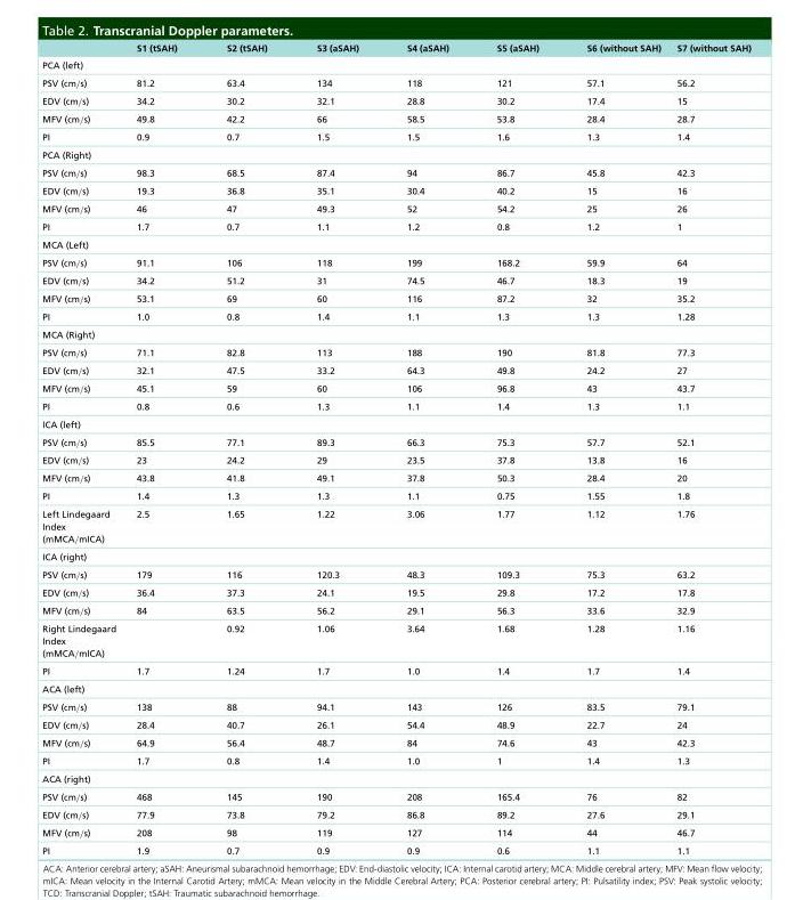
<table><thead><tr><td></td><td>S1 (tSAH)</td><td>S2 (tSAH)</td><td>S3 (aSAH)</td><td>S4 (aSAH)</td><td>S5 (aSAH)</td><td>S6 (without SAH)</td><td>S7 (without SAH)</td></tr></thead><tbody><tr><td colspan="8">PCA (left)</td></tr><tr><td>PSV (cm/s)</td><td>81.2</td><td>63.4</td><td>134</td><td>118</td><td>121</td><td>57.1</td><td>56.2</td></tr><tr><td>EDV (cm/s)</td><td>34.2</td><td>30.2</td><td>32.1</td><td>28.8</td><td>30.2</td><td>17.4</td><td>15</td></tr><tr><td>MFV (cm/s)</td><td>49.8</td><td>42.2</td><td>66</td><td>58.5</td><td>53.8</td><td>28.4</td><td>28.7</td></tr><tr><td>PI</td><td>0.9</td><td>0.7</td><td>1.5</td><td>1.5</td><td>1.6</td><td>1.3</td><td>1.4</td></tr><tr><td colspan="8">PCA (Right)</td></tr><tr><td>PSV (cm/s)</td><td>98.3</td><td>68.5</td><td>87.4</td><td>94</td><td>86.7</td><td>45.8</td><td>42.3</td></tr><tr><td>EDV (cm/s)</td><td>19.3</td><td>36.8</td><td>35.1</td><td>30.4</td><td>40.2</td><td>15</td><td>16</td></tr><tr><td>MFV (cm/s)</td><td>46</td><td>47</td><td>49.3</td><td>52</td><td>54.2</td><td>25</td><td>26</td></tr><tr><td>PI</td><td>1.7</td><td>0.7</td><td>1.1</td><td>1.2</td><td>0.8</td><td>1.2</td><td>1</td></tr><tr><td colspan="8">MCA (Left)</td></tr><tr><td>PSV (cm/s)</td><td>91.1</td><td>106</td><td>118</td><td>199</td><td>168.2</td><td>59.9</td><td>64</td></tr><tr><td>EDV (cm/s)</td><td>34.2</td><td>51.2</td><td>31</td><td>74.5</td><td>46.7</td><td>18.3</td><td>19</td></tr><tr><td>MFV (cm/s)</td><td>53.1</td><td>69</td><td>60</td><td>116</td><td>87.2</td><td>32</td><td>35.2</td></tr><tr><td>PI</td><td>1.0</td><td>0.8</td><td>1.4</td><td>1.1</td><td>1.3</td><td>1.3</td><td>1.28</td></tr><tr><td colspan="8">MCA (Right)</td></tr><tr><td>PSV (cm/s)</td><td>71.1</td><td>82.8</td><td>113</td><td>188</td><td>190</td><td>81.8</td><td>77.3</td></tr><tr><td>EDV (cm/s)</td><td>32.1</td><td>47.5</td><td>33.2</td><td>64.3</td><td>49.8</td><td>24.2</td><td>27</td></tr><tr><td>MFV (cm/s)</td><td>45.1</td><td>59</td><td>60</td><td>106</td><td>96.8</td><td>43</td><td>43.7</td></tr><tr><td>PI</td><td>0.8</td><td>0.6</td><td>1.3</td><td>1.1</td><td>1.4</td><td>1.3</td><td>1.1</td></tr><tr><td colspan="8">ICA (left)</td></tr><tr><td>PSV (cm/s)</td><td>85.5</td><td>77.1</td><td>89.3</td><td>66.3</td><td>75.3</td><td>57.7</td><td>52.1</td></tr><tr><td>EDV (cm/s)</td><td>23</td><td>24.2</td><td>29</td><td>23.5</td><td>37.8</td><td>13.8</td><td>16</td></tr><tr><td>MFV (cm/s)</td><td>43.8</td><td>41.8</td><td>49.1</td><td>37.8</td><td>50.3</td><td>28.4</td><td>20</td></tr><tr><td>PI</td><td>1.4</td><td>1.3</td><td>1.3</td><td>1.1</td><td>0.75</td><td>1.55</td><td>1.8</td></tr><tr><td>Left Lindegaard Index (mMCA/mICA)</td><td>2.5</td><td>1.65</td><td>1.22</td><td>3.06</td><td>1.77</td><td>1.12</td><td>1.76</td></tr><tr><td colspan="8">ICA (right)</td></tr><tr><td>PSV (cm/s)</td><td>179</td><td>116</td><td>120.3</td><td>48.3</td><td>109.3</td><td>75.3</td><td>63.2</td></tr><tr><td>EDV (cm/s)</td><td>36.4</td><td>37.3</td><td>24.1</td><td>19.5</td><td>29.8</td><td>17.2</td><td>17.8</td></tr><tr><td>MFV (cm/s)</td><td>84</td><td>63.5</td><td>56.2</td><td>29.1</td><td>56.3</td><td>33.6</td><td>32.9</td></tr><tr><td>Right Lindegaard Index (mMCA/mICA)</td><td></td><td>0.92</td><td>1.06</td><td>3.64</td><td>1.68</td><td>1.28</td><td>1.16</td></tr><tr><td>PI</td><td>1.7</td><td>1.24</td><td>1.7</td><td>1.0</td><td>1.4</td><td>1.7</td><td>1.4</td></tr><tr><td colspan="8">ACA (left)</td></tr><tr><td>PSV (cm/s)</td><td>138</td><td>88</td><td>94.1</td><td>143</td><td>126</td><td>83.5</td><td>79.1</td></tr><tr><td>EDV (cm/s)</td><td>28.4</td><td>40.7</td><td>26.1</td><td>54.4</td><td>48.9</td><td>22.7</td><td>24</td></tr><tr><td>MFV (cm/s)</td><td>64.9</td><td>56.4</td><td>48.7</td><td>84</td><td>74.6</td><td>43</td><td>42.3</td></tr><tr><td>PI</td><td>1.7</td><td>0.8</td><td>1.4</td><td>1.0</td><td>1</td><td>1.4</td><td>1.3</td></tr><tr><td colspan="8">ACA (right)</td></tr><tr><td>PSV (cm/s)</td><td>468</td><td>145</td><td>190</td><td>208</td><td>165.4</td><td>76</td><td>82</td></tr><tr><td>EDV (cm/s)</td><td>77.9</td><td>73.8</td><td>79.2</td><td>86.8</td><td>89.2</td><td>27.6</td><td>29.1</td></tr><tr><td>MFV (cm/s)</td><td>208</td><td>98</td><td>119</td><td>127</td><td>114</td><td>44</td><td>46.7</td></tr><tr><td>PI</td><td>1.9</td><td>0.7</td><td>0.9</td><td>0.9</td><td>0.6</td><td>1.1</td><td>1.1</td></tr></tbody></table>